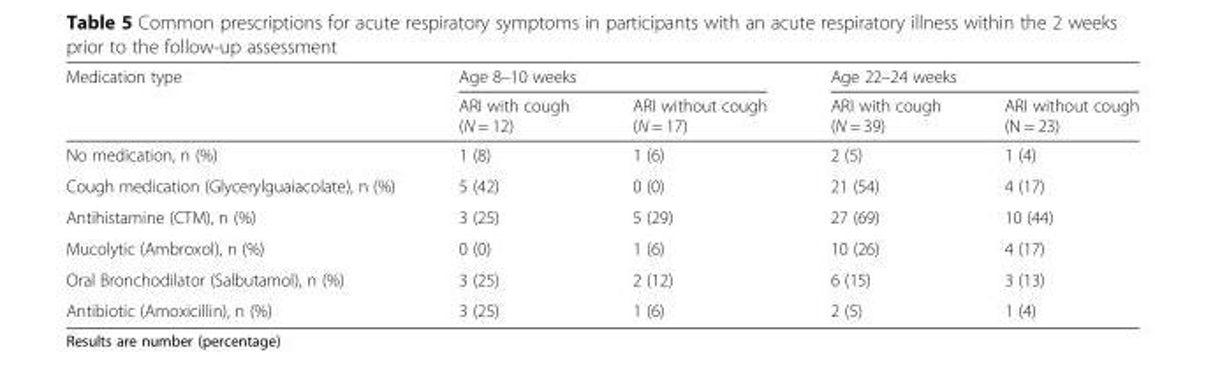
<table><thead><tr><td rowspan="2">Medication type</td><td colspan="2">Age 8–10 weeks</td><td colspan="2">Age 22–24 weeks</td></tr><tr><td>ARI with cough (N = 12)</td><td>ARI without cough (N = 17)</td><td>ARI with cough (N = 39)</td><td>ARI without cough (N = 23)</td></tr></thead><tbody><tr><td>No medication, n (%)</td><td>1 (8)</td><td>1 (6)</td><td>2 (5)</td><td>1 (4)</td></tr><tr><td>Cough medication (Glycerylguaiacolate), n (%)</td><td>5 (42)</td><td>0 (0)</td><td>21 (54)</td><td>4 (17)</td></tr><tr><td>Antihistamine (CTM), n (%)</td><td>3 (25)</td><td>5 (29)</td><td>27 (69)</td><td>10 (44)</td></tr><tr><td>Mucolytic (Ambroxol), n (%)</td><td>0 (0)</td><td>1 (6)</td><td>10 (26)</td><td>4 (17)</td></tr><tr><td>Oral Bronchodilator (Salbutamol), n (%)</td><td>3 (25)</td><td>2 (12)</td><td>6 (15)</td><td>3 (13)</td></tr><tr><td>Antibiotic (Amoxicillin), n (%)</td><td>3 (25)</td><td>1 (6)</td><td>2 (5)</td><td>1 (4)</td></tr></tbody></table>